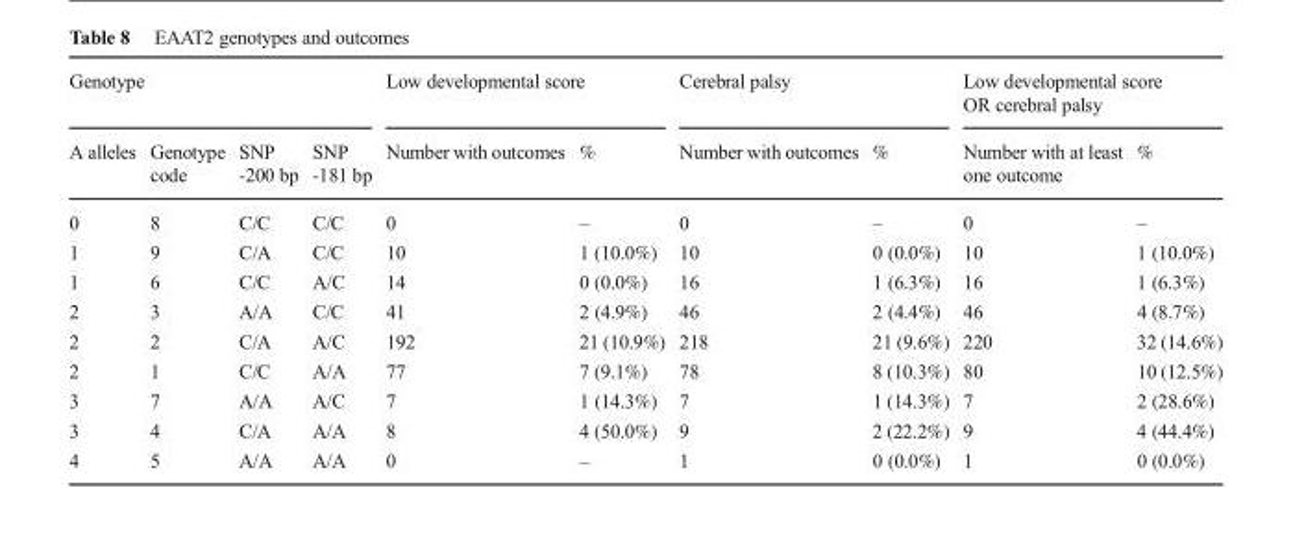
<table><thead><tr><td colspan="4">Genotype</td><td colspan="2">Low developmental score</td><td colspan="2">Cerebral palsy</td><td colspan="2">Low developmental score OR cerebral palsy</td></tr><tr><td>A alleles</td><td>Genotype code</td><td>SNP -200 bp</td><td>SNP -181 bp</td><td>Number with outcomes</td><td>%</td><td>Number with outcomes</td><td>%</td><td>Number with at least one outcome</td><td>%</td></tr></thead><tbody><tr><td>0</td><td>8</td><td>C/C</td><td>C/C</td><td>0</td><td>–</td><td>0</td><td>–</td><td>0</td><td>–</td></tr><tr><td>1</td><td>9</td><td>C/A</td><td>C/C</td><td>10</td><td>1 (10.0%)</td><td>10</td><td>0 (0.0%)</td><td>10</td><td>1 (10.0%)</td></tr><tr><td>1</td><td>6</td><td>C/C</td><td>A/C</td><td>14</td><td>0 (0.0%)</td><td>16</td><td>1 (6.3%)</td><td>16</td><td>1 (6.3%)</td></tr><tr><td>2</td><td>3</td><td>A/A</td><td>C/C</td><td>41</td><td>2 (4.9%)</td><td>46</td><td>2 (4.4%)</td><td>46</td><td>4 (8.7%)</td></tr><tr><td>2</td><td>2</td><td>C/A</td><td>A/C</td><td>192</td><td>21 (10.9%)</td><td>218</td><td>21 (9.6%)</td><td>220</td><td>32 (14.6%)</td></tr><tr><td>2</td><td>1</td><td>C/C</td><td>A/A</td><td>77</td><td>7 (9.1%)</td><td>78</td><td>8 (10.3%)</td><td>80</td><td>10 (12.5%)</td></tr><tr><td>3</td><td>7</td><td>A/A</td><td>A/C</td><td>7</td><td>1 (14.3%)</td><td>7</td><td>1 (14.3%)</td><td>7</td><td>2 (28.6%)</td></tr><tr><td>3</td><td>4</td><td>C/A</td><td>A/A</td><td>8</td><td>4 (50.0%)</td><td>9</td><td>2 (22.2%)</td><td>9</td><td>4 (44.4%)</td></tr><tr><td>4</td><td>5</td><td>A/A</td><td>A/A</td><td>0</td><td>–</td><td>1</td><td>0 (0.0%)</td><td>1</td><td>0 (0.0%)</td></tr></tbody></table>